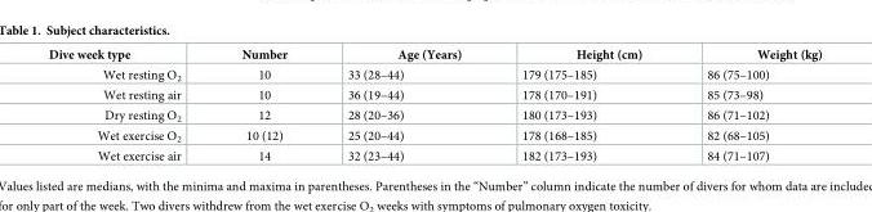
<table><thead><tr><td>Dive week type</td><td>Number</td><td>Age (Years)</td><td>Height (cm)</td><td>Weight (kg)</td></tr></thead><tbody><tr><td>Wet resting O<sub>2</sub></td><td>10</td><td>33 (28–44)</td><td>179 (175–185)</td><td>86 (75–100)</td></tr><tr><td>Wet resting air</td><td>10</td><td>36 (19–44)</td><td>178 (170–191)</td><td>85 (73–98)</td></tr><tr><td>Dry resting O<sub>2</sub></td><td>12</td><td>28 (20–36)</td><td>180 (173–193)</td><td>86 (71–102)</td></tr><tr><td>Wet exercise O<sub>2</sub></td><td>10 (12)</td><td>25 (20–44)</td><td>178 (168–185)</td><td>82 (68–105)</td></tr><tr><td>Wet exercise air</td><td>14</td><td>32 (23–44)</td><td>182 (173–193)</td><td>84 (71–107)</td></tr></tbody></table>